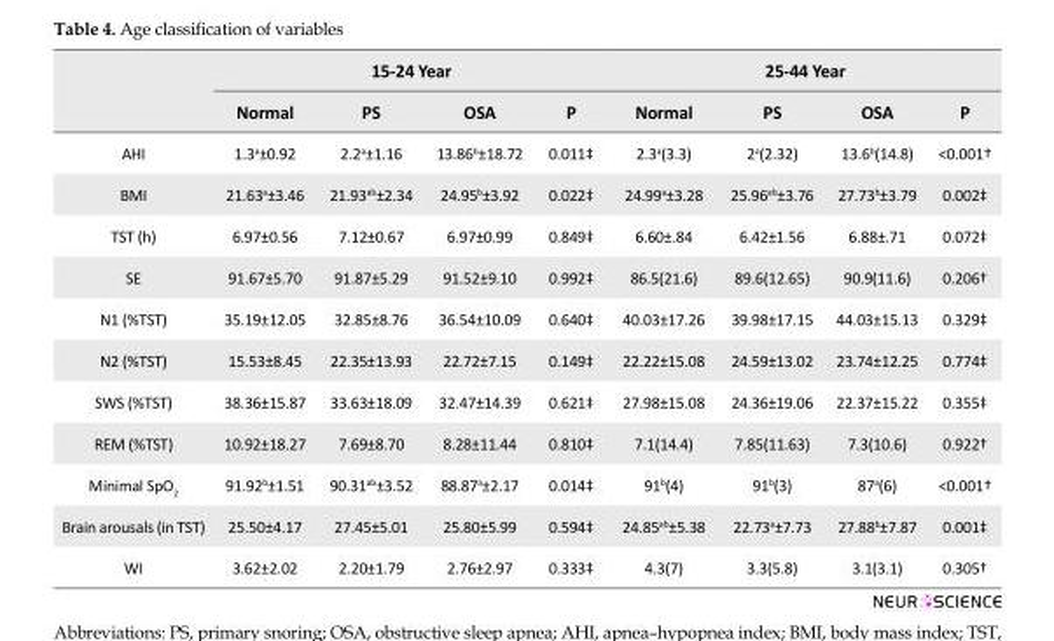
<table><thead><tr><td rowspan="2"></td><td colspan="4">15-24 Year</td><td colspan="4">25-44 Year</td></tr><tr><td>Normal</td><td>PS</td><td>OSA</td><td>P</td><td>Normal</td><td>PS</td><td>OSA</td><td>P</td></tr></thead><tbody><tr><td>AHI</td><td>1.3<sup>a</sup>±0.92</td><td>2.2<sup>a</sup>±1.16</td><td>13.86<sup>b</sup>±18.72</td><td>0.011<sup>‡</sup></td><td>2.3<sup>a</sup>(3.3)</td><td>2<sup>a</sup>(2.32)</td><td>13.6<sup>b</sup>(14.8)</td><td>&lt;0.001<sup>†</sup></td></tr><tr><td>BMI</td><td>21.63<sup>a</sup>±3.46</td><td>21.93<sup>ab</sup>±2.34</td><td>24.95<sup>b</sup>±3.92</td><td>0.022<sup>‡</sup></td><td>24.99<sup>a</sup>±3.28</td><td>25.96<sup>ab</sup>±3.76</td><td>27.73<sup>b</sup>±3.79</td><td>0.002<sup>‡</sup></td></tr><tr><td>TST (h)</td><td>6.97±0.56</td><td>7.12±0.67</td><td>6.97±0.99</td><td>0.849<sup>‡</sup></td><td>6.60±.84</td><td>6.42±1.56</td><td>6.88±.71</td><td>0.072<sup>‡</sup></td></tr><tr><td>SE</td><td>91.67±5.70</td><td>91.87±5.29</td><td>91.52±9.10</td><td>0.992<sup>‡</sup></td><td>86.5(21.6)</td><td>89.6(12.65)</td><td>90.9(11.6)</td><td>0.206<sup>†</sup></td></tr><tr><td>N1 (%TST)</td><td>35.19±12.05</td><td>32.85±8.76</td><td>36.54±10.09</td><td>0.640<sup>‡</sup></td><td>40.03±17.26</td><td>39.98±17.15</td><td>44.03±15.13</td><td>0.329<sup>‡</sup></td></tr><tr><td>N2 (%TST)</td><td>15.53±8.45</td><td>22.35±13.93</td><td>22.72±7.15</td><td>0.149<sup>‡</sup></td><td>22.22±15.08</td><td>24.59±13.02</td><td>23.74±12.25</td><td>0.774<sup>‡</sup></td></tr><tr><td>SWS (%TST)</td><td>38.36±15.87</td><td>33.63±18.09</td><td>32.47±14.39</td><td>0.621<sup>‡</sup></td><td>27.98±15.08</td><td>24.36±19.06</td><td>22.37±15.22</td><td>0.355<sup>‡</sup></td></tr><tr><td>REM (%TST)</td><td>10.92±18.27</td><td>7.69±8.70</td><td>8.28±11.44</td><td>0.810<sup>‡</sup></td><td>7.1(14.4)</td><td>7.85(11.63)</td><td>7.3(10.6)</td><td>0.922<sup>†</sup></td></tr><tr><td>Minimal SpO<sub>2</sub></td><td>91.92<sup>b</sup>±1.51</td><td>90.31<sup>ab</sup>±3.52</td><td>88.87<sup>a</sup>±2.17</td><td>0.014<sup>‡</sup></td><td>91<sup>b</sup>(4)</td><td>91<sup>b</sup>(3)</td><td>87<sup>a</sup>(6)</td><td>&lt;0.001<sup>†</sup></td></tr><tr><td>Brain arousals (in TST)</td><td>25.50±4.17</td><td>27.45±5.01</td><td>25.80±5.99</td><td>0.594<sup>‡</sup></td><td>24.85<sup>ab</sup>±5.38</td><td>22.73<sup>a</sup>±7.73</td><td>27.88<sup>b</sup>±7.87</td><td>0.001<sup>‡</sup></td></tr><tr><td>WI</td><td>3.62±2.02</td><td>2.20±1.79</td><td>2.76±2.97</td><td>0.333<sup>‡</sup></td><td>4.3(7)</td><td>3.3(5.8)</td><td>3.1(3.1)</td><td>0.305<sup>†</sup></td></tr></tbody></table>